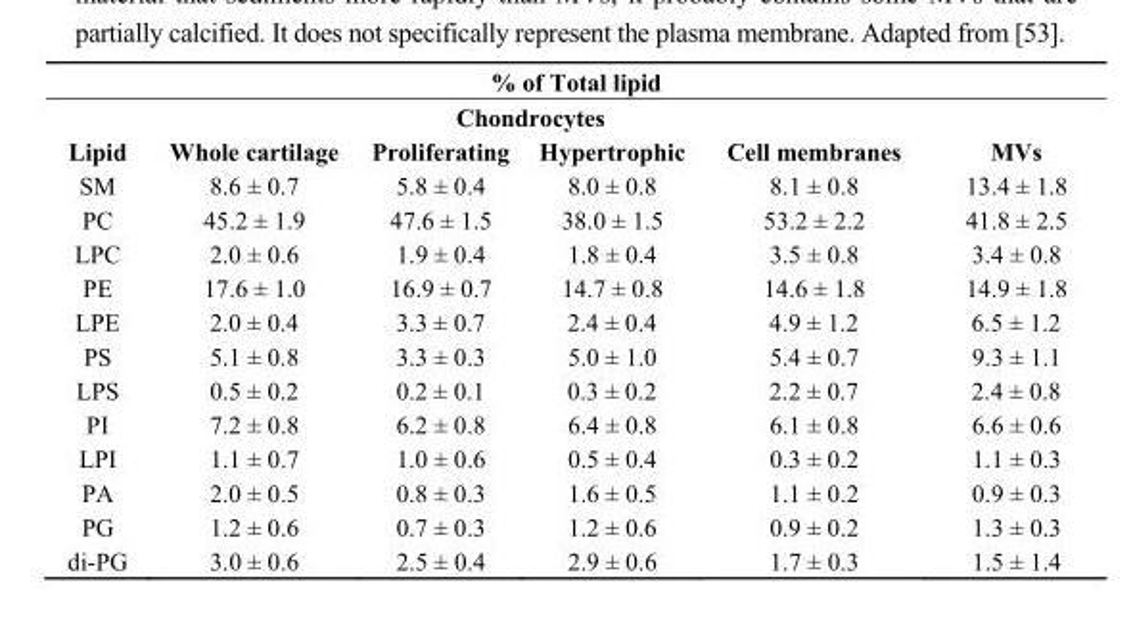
<table><thead><tr><td rowspan="2" colspan="6">% of Total lipid Chondrocytes</td></tr><tr></tr><tr><td>Lipid</td><td>Whole cartilage</td><td>Proliferating</td><td>Hypertrophic</td><td>Cell membranes</td><td>MVs</td></tr></thead><tbody><tr><td>SM</td><td>8.6 ± 0.7</td><td>5.8 ± 0.4</td><td>8.0 ± 0.8</td><td>8.1 ± 0.8</td><td>13.4 ± 1.8</td></tr><tr><td>PC</td><td>45.2 ± 1.9</td><td>47.6 ± 1.5</td><td>38.0 ± 1.5</td><td>53.2 ± 2.2</td><td>41.8 ± 2.5</td></tr><tr><td>LPC</td><td>2.0 ± 0.6</td><td>1.9 ± 0.4</td><td>1.8 ± 0.4</td><td>3.5 ± 0.8</td><td>3.4 ± 0.8</td></tr><tr><td>PE</td><td>17.6 ± 1.0</td><td>16.9 ± 0.7</td><td>14.7 ± 0.8</td><td>14.6 ± 1.8</td><td>14.9 ± 1.8</td></tr><tr><td>LPE</td><td>2.0 ± 0.4</td><td>3.3 ± 0.7</td><td>2.4 ± 0.4</td><td>4.9 ± 1.2</td><td>6.5 ± 1.2</td></tr><tr><td>PS</td><td>5.1 ± 0.8</td><td>3.3 ± 0.3</td><td>5.0 ± 1.0</td><td>5.4 ± 0.7</td><td>9.3 ± 1.1</td></tr><tr><td>LPS</td><td>0.5 ± 0.2</td><td>0.2 ± 0.1</td><td>0.3 ± 0.2</td><td>2.2 ± 0.7</td><td>2.4 ± 0.8</td></tr><tr><td>PI</td><td>7.2 ± 0.8</td><td>6.2 ± 0.8</td><td>6.4 ± 0.8</td><td>6.1 ± 0.8</td><td>6.6 ± 0.6</td></tr><tr><td>LPI</td><td>1.1 ± 0.7</td><td>1.0 ± 0.6</td><td>0.5 ± 0.4</td><td>0.3 ± 0.2</td><td>1.1 ± 0.3</td></tr><tr><td>PA</td><td>2.0 ± 0.5</td><td>0.8 ± 0.3</td><td>1.6 ± 0.5</td><td>1.1 ± 0.2</td><td>0.9 ± 0.3</td></tr><tr><td>PG</td><td>1.2 ± 0.6</td><td>0.7 ± 0.3</td><td>1.2 ± 0.6</td><td>0.9 ± 0.2</td><td>1.3 ± 0.3</td></tr><tr><td>di-PG</td><td>3.0 ± 0.6</td><td>2.5 ± 0.4</td><td>2.9 ± 0.6</td><td>1.7 ± 0.3</td><td>1.5 ± 1.4</td></tr></tbody></table>